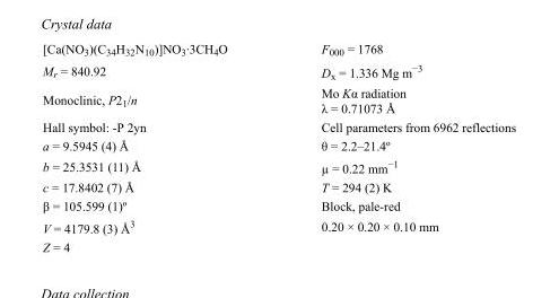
<table><tbody><tr><td>[Ca(NO<sub>3</sub>)(C<sub>34</sub>H<sub>32</sub>N<sub>10</sub>)]NO<sub>3</sub>·3CH<sub>4</sub>O</td><td>F<sub>000</sub> = 1768</td></tr><tr><td>M<sub>r</sub> = 840.92</td><td>D<sub>x</sub> = 1.336 Mg m<sup>−3</sup></td></tr><tr><td>Monoclinic, P2<sub>1</sub>/n</td><td>Mo Kα radiation λ = 0.71073 Å</td></tr><tr><td>Hall symbol: -P 2yn</td><td>Cell parameters from 6962 reflections</td></tr><tr><td>a = 9.5945 (4) Å</td><td>θ = 2.2–21.4º</td></tr><tr><td>b = 25.3531 (11) Å</td><td>µ = 0.22 mm<sup>−1</sup></td></tr><tr><td>c = 17.8402 (7) Å</td><td>T = 294 (2) K</td></tr><tr><td>β = 105.599 (1)º</td><td>Block, pale-red</td></tr><tr><td>V = 4179.8 (3) Å<sup>3</sup></td><td>0.20 × 0.20 × 0.10 mm</td></tr><tr><td>Z = 4</td><td></td></tr></tbody></table>